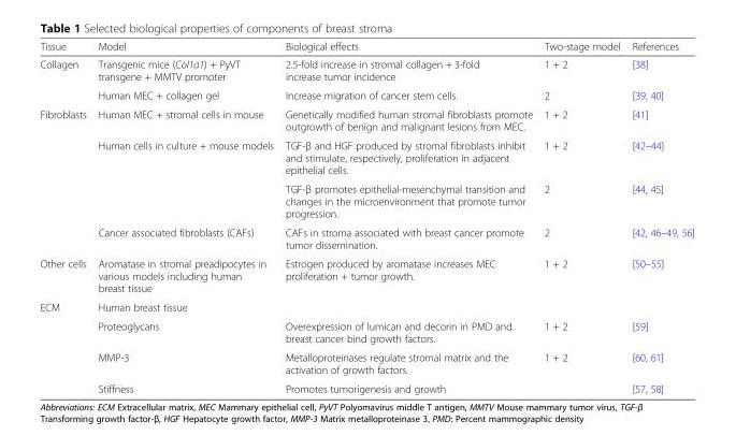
<table><thead><tr><td>Tissue</td><td>Model</td><td>Biological effects</td><td>Two-stage model</td><td>References</td></tr></thead><tbody><tr><td rowspan="2">Collagen</td><td>Transgenic mice (Col1a1) + PyVT transgene + MMTV promoter</td><td>2.5-fold increase in stromal collagen + 3-fold increase tumor incidence</td><td>1 + 2</td><td>[38]</td></tr><tr><td>Human MEC + collagen gel</td><td>Increase migration of cancer stem cells.</td><td>2</td><td>[39, 40]</td></tr><tr><td rowspan="4">Fibroblasts</td><td>Human MEC + stromal cells in mouse</td><td>Genetically modified human stromal fibroblasts promote outgrowth of benign and malignant lesions from MEC.</td><td>1 + 2</td><td>[41]</td></tr><tr><td rowspan="2">Human cells in culture + mouse models</td><td>TGF-β and HGF produced by stromal fibroblasts inhibit and stimulate, respectively, proliferation in adjacent epithelial cells.</td><td>1 + 2</td><td>[42–44]</td></tr><tr><td>TGF-β promotes epithelial-mesenchymal transition and changes in the microenvironment that promote tumor progression.</td><td>2</td><td>[44, 45]</td></tr><tr><td>Cancer associated fibroblasts (CAFs)</td><td>CAFs in stroma associated with breast cancer promote tumor dissemination.</td><td>2</td><td>[42, 46–49, 56]</td></tr><tr><td>Other cells</td><td>Aromatase in stromal preadipocytes in various models including human breast tissue</td><td>Estrogen produced by aromatase increases MEC proliferation + tumor growth.</td><td>1 + 2</td><td>[50–55]</td></tr><tr><td rowspan="4">ECM</td><td>Human breast tissue</td><td></td><td></td><td></td></tr><tr><td>Proteoglycans</td><td>Overexpression of lumican and decorin in PMD and breast cancer bind growth factors.</td><td>1 + 2</td><td>[59]</td></tr><tr><td>MMP-3</td><td>Metalloproteinases regulate stromal matrix and the activation of growth factors.</td><td>1 + 2</td><td>[60, 61]</td></tr><tr><td>Stiffness</td><td>Promotes tumorigenesis and growth</td><td></td><td>[57, 58]</td></tr></tbody></table>